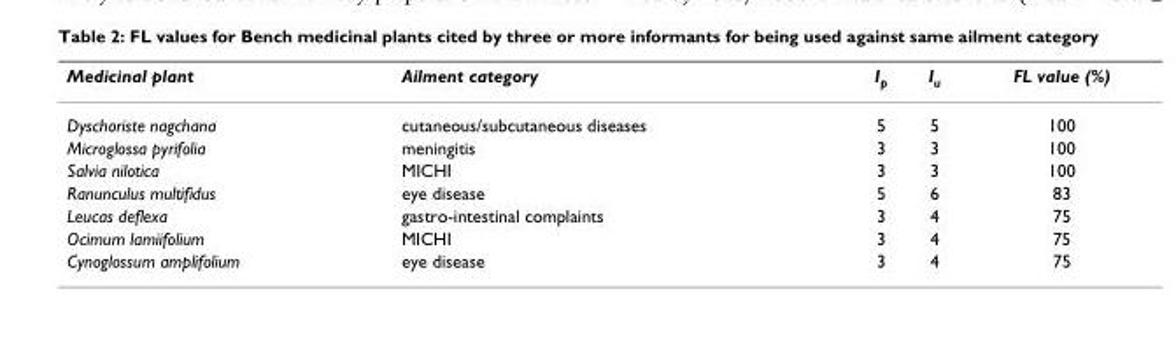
<table><thead><tr><td>Medicinal plant</td><td>Ailment category</td><td>I<sub>p</sub></td><td>I<sub>u</sub></td><td>FL value (%)</td></tr></thead><tbody><tr><td>Dyschoriste nagchana</td><td>cutaneous/subcutaneous diseases</td><td>5</td><td>5</td><td>100</td></tr><tr><td>Microglossa pyrifolia</td><td>meningitis</td><td>3</td><td>3</td><td>100</td></tr><tr><td>Salvia nilotica</td><td>MICHI</td><td>3</td><td>3</td><td>100</td></tr><tr><td>Ranunculus multifidus</td><td>eye disease</td><td>5</td><td>6</td><td>83</td></tr><tr><td>Leucas deflexa</td><td>gastro-intestinal complaints</td><td>3</td><td>4</td><td>75</td></tr><tr><td>Ocimum lamiifolium</td><td>MICHI</td><td>3</td><td>4</td><td>75</td></tr><tr><td>Cynoglossum amplifolium</td><td>eye disease</td><td>3</td><td>4</td><td>75</td></tr></tbody></table>